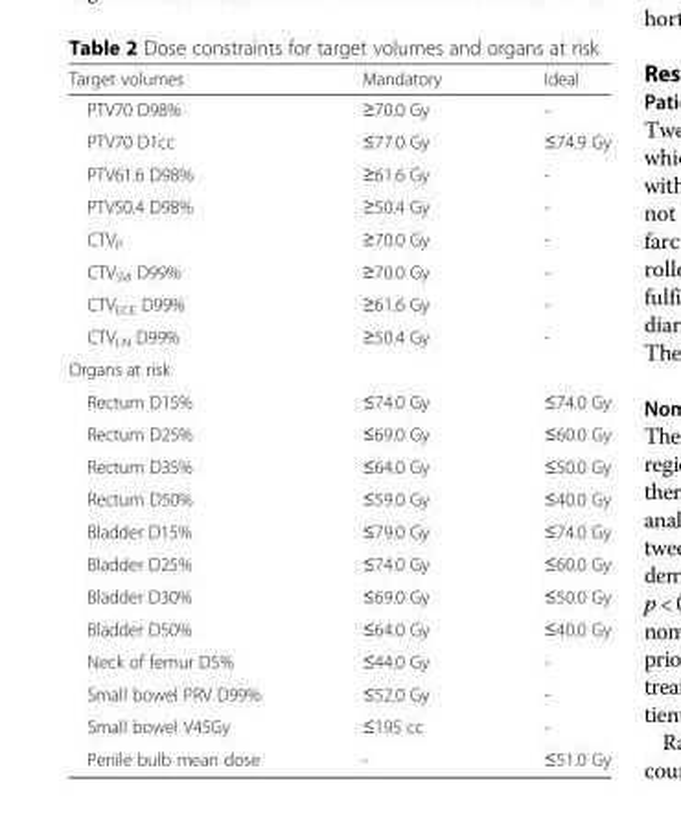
<table><thead><tr><td>Target volumes</td><td>Mandatory</td><td>Ideal</td></tr></thead><tbody><tr><td>PTV70 D98%</td><td>≥70.0 Gy</td><td>-</td></tr><tr><td>PTV70 D1cc</td><td>≤77.0 Gy</td><td>≤74.9 Gy</td></tr><tr><td>PTV61.6 D98%</td><td>≥61.6 Gy</td><td>-</td></tr><tr><td>PTV50.4 D98%</td><td>≥50.4 Gy</td><td>-</td></tr><tr><td>CTV<sub>P</sub></td><td>≥70.0 Gy</td><td>-</td></tr><tr><td>CTV<sub>SVI</sub> D99%</td><td>≥70.0 Gy</td><td>-</td></tr><tr><td>CTV<sub>ECE</sub> D99%</td><td>≥61.6 Gy</td><td>-</td></tr><tr><td>CTV<sub>LN</sub> D99%</td><td>≥50.4 Gy</td><td>-</td></tr><tr><td colspan="3">Organs at risk</td></tr><tr><td>Rectum D15%</td><td>≤74.0 Gy</td><td>≤74.0 Gy</td></tr><tr><td>Rectum D25%</td><td>≤69.0 Gy</td><td>≤60.0 Gy</td></tr><tr><td>Rectum D35%</td><td>≤64.0 Gy</td><td>≤50.0 Gy</td></tr><tr><td>Rectum D50%</td><td>≤59.0 Gy</td><td>≤40.0 Gy</td></tr><tr><td>Bladder D15%</td><td>≤79.0 Gy</td><td>≤74.0 Gy</td></tr><tr><td>Bladder D25%</td><td>≤74.0 Gy</td><td>≤60.0 Gy</td></tr><tr><td>Bladder D30%</td><td>≤69.0 Gy</td><td>≤50.0 Gy</td></tr><tr><td>Bladder D50%</td><td>≤64.0 Gy</td><td>≤40.0 Gy</td></tr><tr><td>Neck of femur D5%</td><td>≤44.0 Gy</td><td>-</td></tr><tr><td>Small bowel PRV D99%</td><td>≤52.0 Gy</td><td>-</td></tr><tr><td>Small bowel V45Gy</td><td>≤195 cc</td><td>-</td></tr><tr><td>Penile bulb mean dose</td><td>-</td><td>≤51.0 Gy</td></tr></tbody></table>